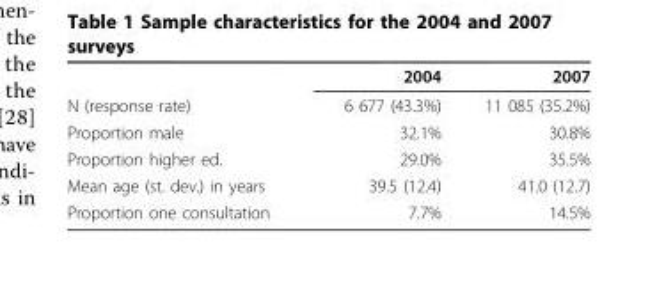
<table><thead><tr><td></td><td>2004</td><td>2007</td></tr></thead><tbody><tr><td>N (response rate)</td><td>6 677 (43.3%)</td><td>11 085 (35.2%)</td></tr><tr><td>Proportion male</td><td>32.1%</td><td>30.8%</td></tr><tr><td>Proportion higher ed.</td><td>29.0%</td><td>35.5%</td></tr><tr><td>Mean age (st. dev.) in years</td><td>39.5 (12.4)</td><td>41.0 (12.7)</td></tr><tr><td>Proportion one consultation</td><td>7.7%</td><td>14.5%</td></tr></tbody></table>